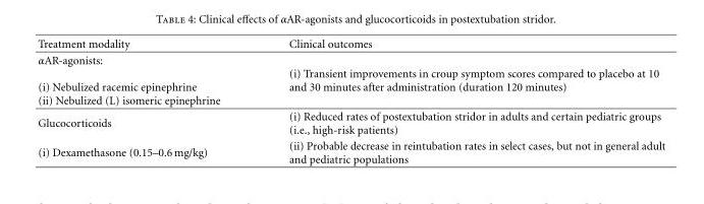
<table><thead><tr><td>Treatment modality</td><td>Clinical outcomes</td></tr></thead><tbody><tr><td>αAR-agonists: (i) Nebulized racemic epinephrine (ii) Nebulized (L) isomeric epinephrine</td><td>(i) Transient improvements in croup symptom scores compared to placebo at 10 and 30 minutes after administration (duration 120 minutes)</td></tr><tr><td>Glucocorticoids</td><td>(i) Reduced rates of postextubation stridor in adults and certain pediatric groups (i.e., high-risk patients)</td></tr><tr><td>(i) Dexamethasone (0.15–0.6 mg/kg)</td><td>(ii) Probable decrease in reintubation rates in select cases, but not in general adult and pediatric populations</td></tr></tbody></table>